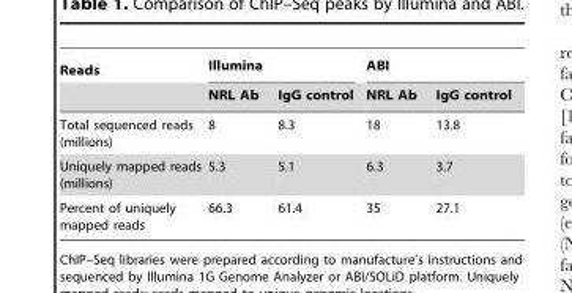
<table><thead><tr><td rowspan="2">Reads</td><td colspan="2">Illumina</td><td colspan="2">ABI</td></tr><tr><td>NRL Ab</td><td>IgG control</td><td>NRL Ab</td><td>IgG control</td></tr></thead><tbody><tr><td>Total sequenced reads (millions)</td><td>8</td><td>8.3</td><td>18</td><td>13.8</td></tr><tr><td>Uniquely mapped reads (millions)</td><td>5.3</td><td>5.1</td><td>6.3</td><td>3.7</td></tr><tr><td>Percent of uniquely mapped reads</td><td>66.3</td><td>61.4</td><td>35</td><td>27.1</td></tr></tbody></table>